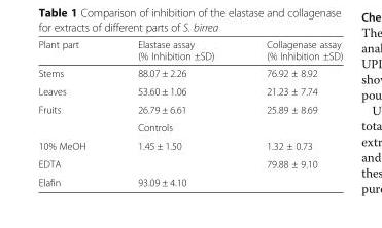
<table><thead><tr><td>Plant part</td><td>Elastase assay (% Inhibition ±SD)</td><td>Collagenase assay (% Inhibition ±SD)</td></tr></thead><tbody><tr><td>Stems</td><td>88.07 ± 2.26</td><td>76.92 ± 8.92</td></tr><tr><td>Leaves</td><td>53.60 ± 1.06</td><td>21.23 ± 7.74</td></tr><tr><td rowspan="2">Fruits</td><td>26.79 ± 6.61</td><td>25.89 ± 8.69</td></tr><tr><td>Controls</td><td></td></tr><tr><td>10% MeOH</td><td>1.45 ± 1.50</td><td>1.32 ± 0.73</td></tr><tr><td>EDTA</td><td></td><td>79.88 ± 9.10</td></tr><tr><td>Elafin</td><td>93.09 ± 4.10</td><td></td></tr></tbody></table>